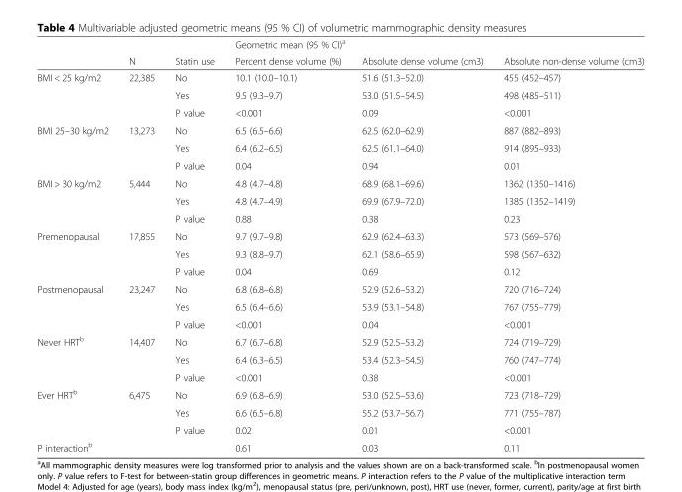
<table><thead><tr><td rowspan="2"></td><td rowspan="2">N</td><td rowspan="2">Statin use</td><td colspan="3">Geometric mean (95 % CI)<sup>a</sup></td></tr><tr><td>Percent dense volume (%)</td><td>Absolute dense volume (cm3)</td><td>Absolute non-dense volume (cm3)</td></tr></thead><tbody><tr><td rowspan="3">BMI &lt; 25 kg/m2</td><td rowspan="2">22,385</td><td>No</td><td>10.1 (10.0–10.1)</td><td>51.6 (51.3–52.0)</td><td>455 (452–457)</td></tr><tr><td>Yes</td><td>9.5 (9.3–9.7)</td><td>53.0 (51.5–54.5)</td><td>498 (485–511)</td></tr><tr><td></td><td>P value</td><td>&lt;0.001</td><td>0.09</td><td>&lt;0.001</td></tr><tr><td rowspan="3">BMI 25–30 kg/m2</td><td rowspan="2">13,273</td><td>No</td><td>6.5 (6.5–6.6)</td><td>62.5 (62.0–62.9)</td><td>887 (882–893)</td></tr><tr><td>Yes</td><td>6.4 (6.2–6.5)</td><td>62.5 (61.1–64.0)</td><td>914 (895–933)</td></tr><tr><td></td><td>P value</td><td>0.04</td><td>0.94</td><td>0.01</td></tr><tr><td rowspan="3">BMI &gt; 30 kg/m2</td><td rowspan="2">5,444</td><td>No</td><td>4.8 (4.7–4.8)</td><td>68.9 (68.1–69.6)</td><td>1362 (1350–1416)</td></tr><tr><td>Yes</td><td>4.8 (4.7–4.9)</td><td>69.9 (67.9–72.0)</td><td>1385 (1352–1419)</td></tr><tr><td></td><td>P value</td><td>0.88</td><td>0.38</td><td>0.23</td></tr><tr><td rowspan="3">Premenopausal</td><td>17,855</td><td>No</td><td>9.7 (9.7–9.8)</td><td>62.9 (62.4–63.3)</td><td>573 (569–576)</td></tr><tr><td></td><td>Yes</td><td>9.3 (8.8–9.7)</td><td>62.1 (58.6–65.9)</td><td>598 (567–632)</td></tr><tr><td></td><td>P value</td><td>0.04</td><td>0.69</td><td>0.12</td></tr><tr><td rowspan="3">Postmenopausal</td><td>23,247</td><td>No</td><td>6.8 (6.8–6.8)</td><td>52.9 (52.6–53.2)</td><td>720 (716–724)</td></tr><tr><td></td><td>Yes</td><td>6.5 (6.4–6.6)</td><td>53.9 (53.1–54.8)</td><td>767 (755–779)</td></tr><tr><td></td><td>P value</td><td>&lt;0.001</td><td>0.04</td><td>&lt;0.001</td></tr><tr><td rowspan="3">Never HRT<sup>b</sup></td><td>14,407</td><td>No</td><td>6.7 (6.7–6.8)</td><td>52.9 (52.5–53.2)</td><td>724 (719–729)</td></tr><tr><td></td><td>Yes</td><td>6.4 (6.3–6.5)</td><td>53.4 (52.3–54.5)</td><td>760 (747–774)</td></tr><tr><td></td><td>P value</td><td>&lt;0.001</td><td>0.38</td><td>&lt;0.001</td></tr><tr><td rowspan="3">Ever HRT<sup>b</sup></td><td>6,475</td><td>No</td><td>6.9 (6.8–6.9)</td><td>53.0 (52.5–53.6)</td><td>723 (718–729)</td></tr><tr><td></td><td>Yes</td><td>6.6 (6.5–6.8)</td><td>55.2 (53.7–56.7)</td><td>771 (755–787)</td></tr><tr><td></td><td>P value</td><td>0.02</td><td>0.01</td><td>&lt;0.001</td></tr><tr><td>P interaction<sup>b</sup></td><td></td><td></td><td>0.61</td><td>0.03</td><td>0.11</td></tr></tbody></table>